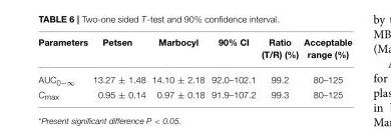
<table><thead><tr><td>Parameters</td><td>Petsen</td><td>Marbocyl</td><td>90% CI</td><td>Ratio (T/R) (%)</td><td>Acceptable range (%)</td></tr></thead><tbody><tr><td>AUC<sub>0−∞</sub></td><td>13.27 ± 1.48</td><td>14.10 ± 2.18</td><td>92.0–102.1</td><td>99.2</td><td>80–125</td></tr><tr><td>C<sub>max</sub></td><td>0.95 ± 0.14</td><td>0.97 ± 0.18</td><td>91.9–107.2</td><td>99.3</td><td>80–125</td></tr></tbody></table>